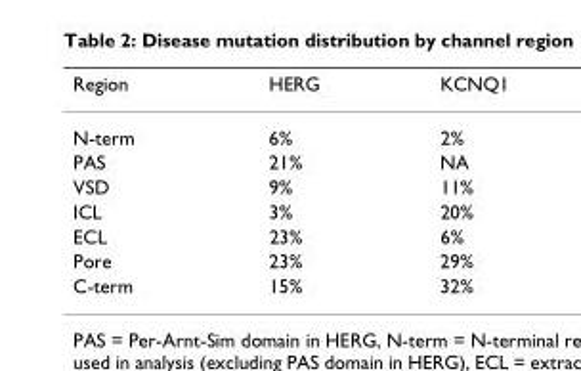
<table><thead><tr><td>Region</td><td>HERG</td><td>KCNQ1</td></tr></thead><tbody><tr><td>N-term</td><td>6%</td><td>2%</td></tr><tr><td>PAS</td><td>21%</td><td>NA</td></tr><tr><td>VSD</td><td>9%</td><td>11%</td></tr><tr><td>ICL</td><td>3%</td><td>20%</td></tr><tr><td>ECL</td><td>23%</td><td>6%</td></tr><tr><td>Pore</td><td>23%</td><td>29%</td></tr><tr><td>C-term</td><td>15%</td><td>32%</td></tr></tbody></table>